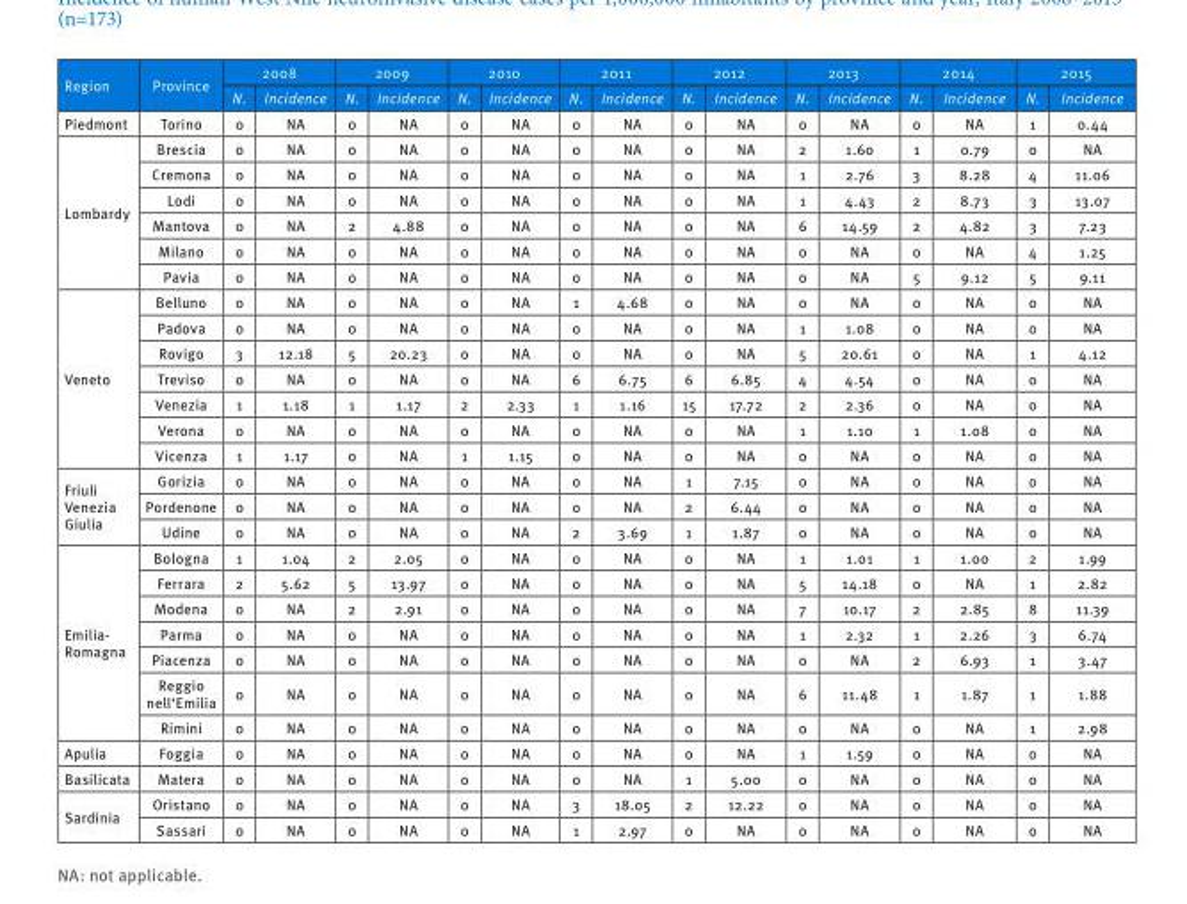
<table><thead><tr><td rowspan="2">Region</td><td rowspan="2">Province</td><td colspan="2">2008</td><td colspan="2">2009</td><td colspan="2">2010</td><td colspan="2">2011</td><td colspan="2">2012</td><td colspan="2">2013</td><td colspan="2">2014</td><td colspan="2">2015</td></tr><tr><td>N.</td><td>Incidence</td><td>N.</td><td>Incidence</td><td>N.</td><td>Incidence</td><td>N.</td><td>Incidence</td><td>N.</td><td>Incidence</td><td>N.</td><td>Incidence</td><td>N.</td><td>Incidence</td><td>N.</td><td>Incidence</td></tr></thead><tbody><tr><td>Piedmont</td><td>Torino</td><td>0</td><td>NA</td><td>0</td><td>NA</td><td>0</td><td>NA</td><td>0</td><td>NA</td><td>0</td><td>NA</td><td>0</td><td>NA</td><td>0</td><td>NA</td><td>1</td><td>0.44</td></tr><tr><td rowspan="6">Lombardy</td><td>Brescia</td><td>0</td><td>NA</td><td>0</td><td>NA</td><td>0</td><td>NA</td><td>0</td><td>NA</td><td>0</td><td>NA</td><td>2</td><td>1.60</td><td>1</td><td>0.79</td><td>0</td><td>NA</td></tr><tr><td>Cremona</td><td>0</td><td>NA</td><td>0</td><td>NA</td><td>0</td><td>NA</td><td>0</td><td>NA</td><td>0</td><td>NA</td><td>1</td><td>2.76</td><td>3</td><td>8.28</td><td>4</td><td>11.06</td></tr><tr><td>Lodi</td><td>0</td><td>NA</td><td>0</td><td>NA</td><td>0</td><td>NA</td><td>0</td><td>NA</td><td>0</td><td>NA</td><td>1</td><td>4.43</td><td>2</td><td>8.73</td><td>3</td><td>13.07</td></tr><tr><td>Mantova</td><td>0</td><td>NA</td><td>2</td><td>4.88</td><td>0</td><td>NA</td><td>0</td><td>NA</td><td>0</td><td>NA</td><td>6</td><td>14.59</td><td>2</td><td>4.82</td><td>3</td><td>7.23</td></tr><tr><td>Milano</td><td>0</td><td>NA</td><td>0</td><td>NA</td><td>0</td><td>NA</td><td>0</td><td>NA</td><td>0</td><td>NA</td><td>0</td><td>NA</td><td>0</td><td>NA</td><td>4</td><td>1.25</td></tr><tr><td>Pavia</td><td>0</td><td>NA</td><td>0</td><td>NA</td><td>0</td><td>NA</td><td>0</td><td>NA</td><td>0</td><td>NA</td><td>0</td><td>NA</td><td>5</td><td>9.12</td><td>5</td><td>9.11</td></tr><tr><td rowspan="7">Veneto</td><td>Belluno</td><td>0</td><td>NA</td><td>0</td><td>NA</td><td>0</td><td>NA</td><td>1</td><td>4.68</td><td>0</td><td>NA</td><td>0</td><td>NA</td><td>0</td><td>NA</td><td>0</td><td>NA</td></tr><tr><td>Padova</td><td>0</td><td>NA</td><td>0</td><td>NA</td><td>0</td><td>NA</td><td>0</td><td>NA</td><td>0</td><td>NA</td><td>1</td><td>1.08</td><td>0</td><td>NA</td><td>0</td><td>NA</td></tr><tr><td>Rovigo</td><td>3</td><td>12.18</td><td>5</td><td>20.23</td><td>0</td><td>NA</td><td>0</td><td>NA</td><td>0</td><td>NA</td><td>5</td><td>20.61</td><td>0</td><td>NA</td><td>1</td><td>4.12</td></tr><tr><td>Treviso</td><td>0</td><td>NA</td><td>0</td><td>NA</td><td>0</td><td>NA</td><td>6</td><td>6.75</td><td>6</td><td>6.85</td><td>4</td><td>4.54</td><td>0</td><td>NA</td><td>0</td><td>NA</td></tr><tr><td>Venezia</td><td>1</td><td>1.18</td><td>1</td><td>1.17</td><td>2</td><td>2.33</td><td>1</td><td>1.16</td><td>15</td><td>17.72</td><td>2</td><td>2.36</td><td>0</td><td>NA</td><td>0</td><td>NA</td></tr><tr><td>Verona</td><td>0</td><td>NA</td><td>0</td><td>NA</td><td>0</td><td>NA</td><td>0</td><td>NA</td><td>0</td><td>NA</td><td>1</td><td>1.10</td><td>1</td><td>1.08</td><td>0</td><td>NA</td></tr><tr><td>Vicenza</td><td>1</td><td>1.17</td><td>0</td><td>NA</td><td>1</td><td>1.15</td><td>0</td><td>NA</td><td>0</td><td>NA</td><td>0</td><td>NA</td><td>0</td><td>NA</td><td>0</td><td>NA</td></tr><tr><td rowspan="3">Friuli Venezia Giulia</td><td>Gorizia</td><td>0</td><td>NA</td><td>0</td><td>NA</td><td>0</td><td>NA</td><td>0</td><td>NA</td><td>1</td><td>7.15</td><td>0</td><td>NA</td><td>0</td><td>NA</td><td>0</td><td>NA</td></tr><tr><td>Pordenone</td><td>0</td><td>NA</td><td>0</td><td>NA</td><td>0</td><td>NA</td><td>0</td><td>NA</td><td>2</td><td>6.44</td><td>0</td><td>NA</td><td>0</td><td>NA</td><td>0</td><td>NA</td></tr><tr><td>Udine</td><td>0</td><td>NA</td><td>0</td><td>NA</td><td>0</td><td>NA</td><td>2</td><td>3.69</td><td>1</td><td>1.87</td><td>0</td><td>NA</td><td>0</td><td>NA</td><td>0</td><td>NA</td></tr><tr><td rowspan="7">Emilia- Romagna</td><td>Bologna</td><td>1</td><td>1.04</td><td>2</td><td>2.05</td><td>0</td><td>NA</td><td>0</td><td>NA</td><td>0</td><td>NA</td><td>1</td><td>1.01</td><td>1</td><td>1.00</td><td>2</td><td>1.99</td></tr><tr><td>Ferrara</td><td>2</td><td>5.62</td><td>5</td><td>13.97</td><td>0</td><td>NA</td><td>0</td><td>NA</td><td>0</td><td>NA</td><td>5</td><td>14.18</td><td>0</td><td>NA</td><td>1</td><td>2.82</td></tr><tr><td>Modena</td><td>0</td><td>NA</td><td>2</td><td>2.91</td><td>0</td><td>NA</td><td>0</td><td>NA</td><td>0</td><td>NA</td><td>7</td><td>10.17</td><td>2</td><td>2.85</td><td>8</td><td>11.39</td></tr><tr><td>Parma</td><td>0</td><td>NA</td><td>0</td><td>NA</td><td>0</td><td>NA</td><td>0</td><td>NA</td><td>0</td><td>NA</td><td>1</td><td>2.32</td><td>1</td><td>2.26</td><td>3</td><td>6.74</td></tr><tr><td>Piacenza</td><td>0</td><td>NA</td><td>0</td><td>NA</td><td>0</td><td>NA</td><td>0</td><td>NA</td><td>0</td><td>NA</td><td>0</td><td>NA</td><td>2</td><td>6.93</td><td>1</td><td>3.47</td></tr><tr><td>Reggio nell‘Emilia</td><td>0</td><td>NA</td><td>0</td><td>NA</td><td>0</td><td>NA</td><td>0</td><td>NA</td><td>0</td><td>NA</td><td>6</td><td>11.48</td><td>1</td><td>1.87</td><td>1</td><td>1.88</td></tr><tr><td>Rimini</td><td>0</td><td>NA</td><td>0</td><td>NA</td><td>0</td><td>NA</td><td>0</td><td>NA</td><td>0</td><td>NA</td><td>0</td><td>NA</td><td>0</td><td>NA</td><td>1</td><td>2.98</td></tr><tr><td>Apulia</td><td>Foggia</td><td>0</td><td>NA</td><td>0</td><td>NA</td><td>0</td><td>NA</td><td>0</td><td>NA</td><td>0</td><td>NA</td><td>1</td><td>1.59</td><td>0</td><td>NA</td><td>0</td><td>NA</td></tr><tr><td>Basilicata</td><td>Matera</td><td>0</td><td>NA</td><td>0</td><td>NA</td><td>0</td><td>NA</td><td>0</td><td>NA</td><td>1</td><td>5.00</td><td>0</td><td>NA</td><td>0</td><td>NA</td><td>0</td><td>NA</td></tr><tr><td rowspan="2">Sardinia</td><td>Oristano</td><td>0</td><td>NA</td><td>0</td><td>NA</td><td>0</td><td>NA</td><td>3</td><td>18.05</td><td>2</td><td>12.22</td><td>0</td><td>NA</td><td>0</td><td>NA</td><td>0</td><td>NA</td></tr><tr><td>Sassari</td><td>0</td><td>NA</td><td>0</td><td>NA</td><td>0</td><td>NA</td><td>1</td><td>2.97</td><td>0</td><td>NA</td><td>0</td><td>NA</td><td>0</td><td>NA</td><td>0</td><td>NA</td></tr></tbody></table>